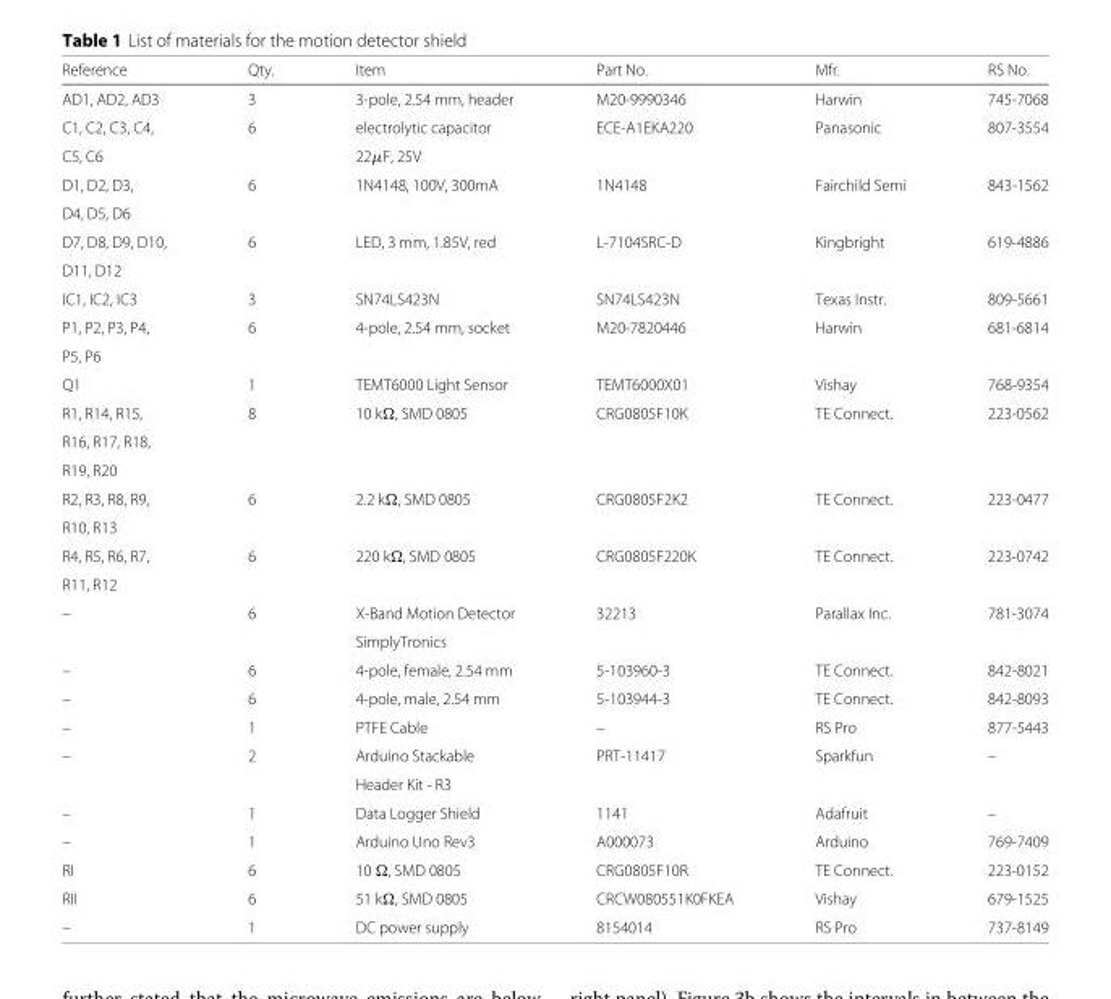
<table><thead><tr><td>Reference</td><td>Qty.</td><td>Item</td><td>Part No.</td><td>Mfr.</td><td>RS No.</td></tr></thead><tbody><tr><td>AD1, AD2, AD3</td><td>3</td><td>3-pole, 2.54 mm, header</td><td>M20-9990346</td><td>Harwin</td><td>745-7068</td></tr><tr><td>C1, C2, C3, C4,</td><td>6</td><td>electrolytic capacitor</td><td>ECE-A1EKA220</td><td>Panasonic</td><td>807-3554</td></tr><tr><td>C5, C6</td><td></td><td>22μF, 25V</td><td></td><td></td><td></td></tr><tr><td>D1, D2, D3,</td><td>6</td><td>1N4148, 100V, 300mA</td><td>1N4148</td><td>Fairchild Semi</td><td>843-1562</td></tr><tr><td colspan="6">D4, D5, D6</td></tr><tr><td>D7, D8, D9, D10,</td><td>6</td><td>LED, 3 mm, 1.85V, red</td><td>L-7104SRC-D</td><td>Kingbright</td><td>619-4886</td></tr><tr><td colspan="6">D11, D12</td></tr><tr><td>IC1, IC2, IC3</td><td>3</td><td>SN74LS423N</td><td>SN74LS423N</td><td>Texas Instr.</td><td>809-5661</td></tr><tr><td>P1, P2, P3, P4,</td><td>6</td><td>4-pole, 2.54 mm, socket</td><td>M20-7820446</td><td>Harwin</td><td>681-6814</td></tr><tr><td colspan="6">P5, P6</td></tr><tr><td>Q1</td><td>1</td><td>TEMT6000 Light Sensor</td><td>TEMT6000X01</td><td>Vishay</td><td>768-9354</td></tr><tr><td>R1, R14, R15,</td><td>8</td><td>10 kΩ, SMD 0805</td><td>CRG0805F10K</td><td>TE Connect.</td><td>223-0562</td></tr><tr><td colspan="6">R16, R17, R18,</td></tr><tr><td colspan="6">R19, R20</td></tr><tr><td>R2, R3, R8, R9,</td><td>6</td><td>2.2 kΩ, SMD 0805</td><td>CRG0805F2K2</td><td>TE Connect.</td><td>223-0477</td></tr><tr><td colspan="6">R10, R13</td></tr><tr><td>R4, R5, R6, R7,</td><td>6</td><td>220 kΩ, SMD 0805</td><td>CRG0805F220K</td><td>TE Connect.</td><td>223-0742</td></tr><tr><td colspan="6">R11, R12</td></tr><tr><td rowspan="2">–</td><td>6</td><td>X-Band Motion Detector</td><td>32213</td><td>Parallax Inc.</td><td>781-3074</td></tr><tr><td></td><td>SimplyTronics</td><td></td><td></td><td></td></tr><tr><td>–</td><td>6</td><td>4-pole, female, 2.54 mm</td><td>5-103960-3</td><td>TE Connect.</td><td>842-8021</td></tr><tr><td>–</td><td>6</td><td>4-pole, male, 2.54 mm</td><td>5-103944-3</td><td>TE Connect.</td><td>842-8093</td></tr><tr><td>–</td><td>1</td><td>PTFE Cable</td><td>–</td><td>RS Pro</td><td>877-5443</td></tr><tr><td rowspan="2">–</td><td>2</td><td>Arduino Stackable</td><td>PRT-11417</td><td>Sparkfun</td><td>–</td></tr><tr><td></td><td>Header Kit - R3</td><td></td><td></td><td></td></tr><tr><td>–</td><td>1</td><td>Data Logger Shield</td><td>1141</td><td>Adafruit</td><td>–</td></tr><tr><td>–</td><td>1</td><td>Arduino Uno Rev3</td><td>A000073</td><td>Arduino</td><td>769-7409</td></tr><tr><td>RI</td><td>6</td><td>10 Ω, SMD 0805</td><td>CRG0805F10R</td><td>TE Connect.</td><td>223-0152</td></tr><tr><td>RII</td><td>6</td><td>51 kΩ, SMD 0805</td><td>CRCW080551K0FKEA</td><td>Vishay</td><td>679-1525</td></tr><tr><td>–</td><td>1</td><td>DC power supply</td><td>8154014</td><td>RS Pro</td><td>737-8149</td></tr></tbody></table>